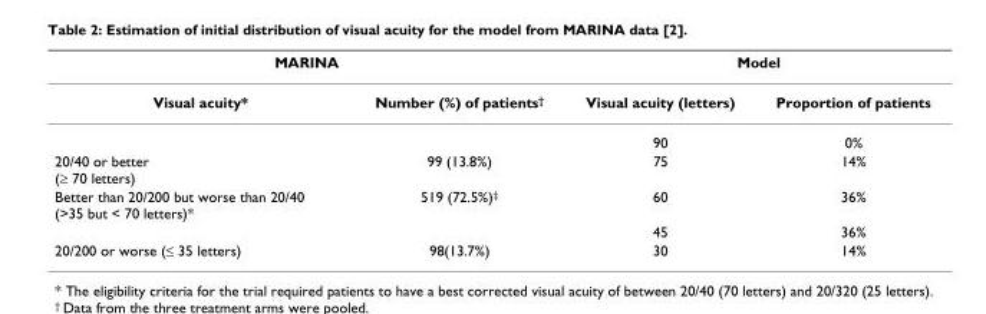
<table><thead><tr><td colspan="2">MARINA</td><td colspan="2">Model</td></tr><tr><td>Visual acuity*</td><td>Number (%) of patients<sup>†</sup></td><td>Visual acuity (letters)</td><td>Proportion of patients</td></tr></thead><tbody><tr><td></td><td></td><td>90</td><td>0%</td></tr><tr><td>20/40 or better (≥ 70 letters)</td><td>99 (13.8%)</td><td>75</td><td>14%</td></tr><tr><td rowspan="2">Better than 20/200 but worse than 20/40 (&gt;35 but &lt; 70 letters)*</td><td>519 (72.5%)<sup>‡</sup></td><td>60</td><td>36%</td></tr><tr><td></td><td>45</td><td>36%</td></tr><tr><td>20/200 or worse (≤ 35 letters)</td><td>98(13.7%)</td><td>30</td><td>14%</td></tr></tbody></table>